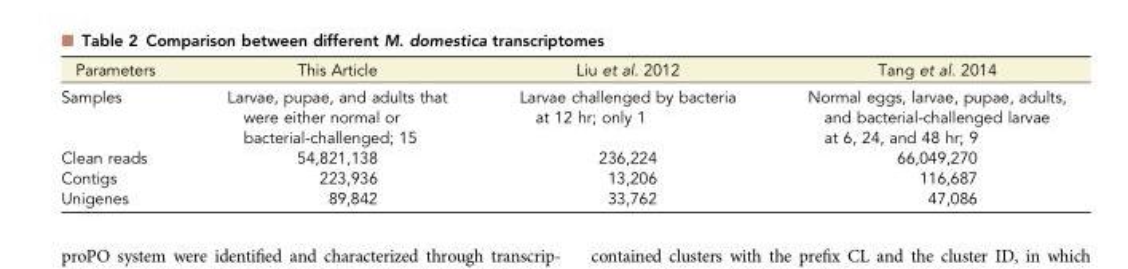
<table><thead><tr><td>Parameters</td><td>This Article</td><td>Liu et al. 2012</td><td>Tang et al. 2014</td></tr></thead><tbody><tr><td>Samples</td><td>Larvae, pupae, and adults that were either normal or bacterial-challenged; 15</td><td>Larvae challenged by bacteria at 12 hr; only 1</td><td>Normal eggs, larvae, pupae, adults, and bacterial-challenged larvae at 6, 24, and 48 hr; 9</td></tr><tr><td>Clean reads</td><td>54,821,138</td><td>236,224</td><td>66,049,270</td></tr><tr><td>Contigs</td><td>223,936</td><td>13,206</td><td>116,687</td></tr><tr><td>Unigenes</td><td>89,842</td><td>33,762</td><td>47,086</td></tr></tbody></table>